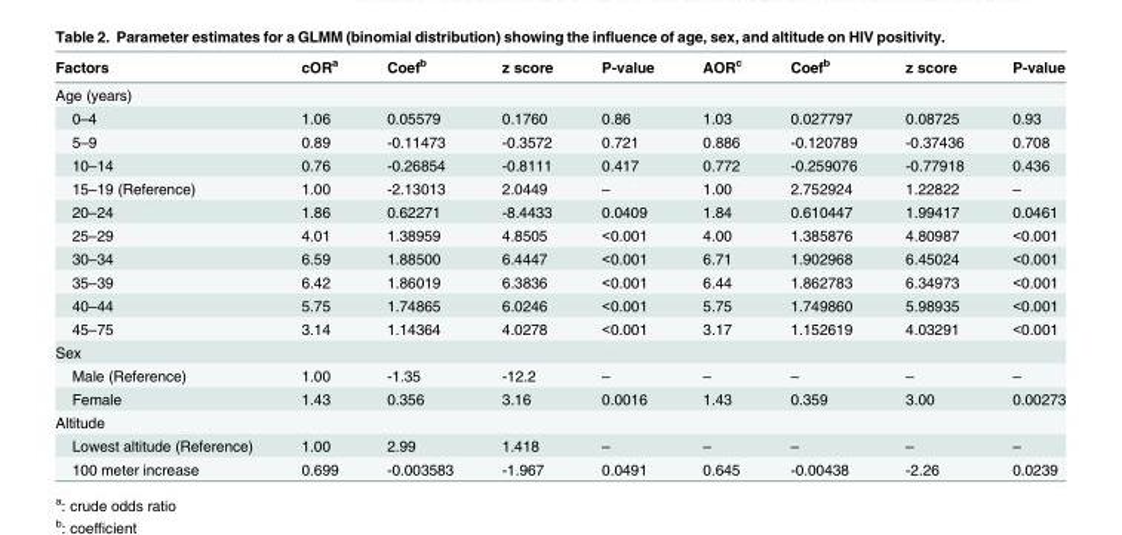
<table><thead><tr><td>Factors</td><td>cOR<sup>a</sup></td><td>Coef<sup>b</sup></td><td>z score</td><td>P-value</td><td>AOR<sup>c</sup></td><td>Coef<sup>b</sup></td><td>z score</td><td>P-value</td></tr></thead><tbody><tr><td colspan="9">Age (years)</td></tr><tr><td>0–4</td><td>1.06</td><td>0.05579</td><td>0.1760</td><td>0.86</td><td>1.03</td><td>0.027797</td><td>0.08725</td><td>0.93</td></tr><tr><td>5–9</td><td>0.89</td><td>-0.11473</td><td>-0.3572</td><td>0.721</td><td>0.886</td><td>-0.120789</td><td>-0.37436</td><td>0.708</td></tr><tr><td>10–14</td><td>0.76</td><td>-0.26854</td><td>-0.8111</td><td>0.417</td><td>0.772</td><td>-0.259076</td><td>-0.77918</td><td>0.436</td></tr><tr><td>15–19 (Reference)</td><td>1.00</td><td>-2.13013</td><td>2.0449</td><td>–</td><td>1.00</td><td>2.752924</td><td>1.22822</td><td>–</td></tr><tr><td>20–24</td><td>1.86</td><td>0.62271</td><td>-8.4433</td><td>0.0409</td><td>1.84</td><td>0.610447</td><td>1.99417</td><td>0.0461</td></tr><tr><td>25–29</td><td>4.01</td><td>1.38959</td><td>4.8505</td><td>&lt;0.001</td><td>4.00</td><td>1.385876</td><td>4.80987</td><td>&lt;0.001</td></tr><tr><td>30–34</td><td>6.59</td><td>1.88500</td><td>6.4447</td><td>&lt;0.001</td><td>6.71</td><td>1.902968</td><td>6.45024</td><td>&lt;0.001</td></tr><tr><td>35–39</td><td>6.42</td><td>1.86019</td><td>6.3836</td><td>&lt;0.001</td><td>6.44</td><td>1.862783</td><td>6.34973</td><td>&lt;0.001</td></tr><tr><td>40–44</td><td>5.75</td><td>1.74865</td><td>6.0246</td><td>&lt;0.001</td><td>5.75</td><td>1.749860</td><td>5.98935</td><td>&lt;0.001</td></tr><tr><td>45–75</td><td>3.14</td><td>1.14364</td><td>4.0278</td><td>&lt;0.001</td><td>3.17</td><td>1.152619</td><td>4.03291</td><td>&lt;0.001</td></tr><tr><td colspan="9">Sex</td></tr><tr><td>Male (Reference)</td><td>1.00</td><td>-1.35</td><td>-12.2</td><td>–</td><td>–</td><td>–</td><td>–</td><td>–</td></tr><tr><td>Female</td><td>1.43</td><td>0.356</td><td>3.16</td><td>0.0016</td><td>1.43</td><td>0.359</td><td>3.00</td><td>0.00273</td></tr><tr><td colspan="9">Altitude</td></tr><tr><td>Lowest altitude (Reference)</td><td>1.00</td><td>2.99</td><td>1.418</td><td>–</td><td>–</td><td>–</td><td>–</td><td>–</td></tr><tr><td>100 meter increase</td><td>0.699</td><td>-0.003583</td><td>-1.967</td><td>0.0491</td><td>0.645</td><td>-0.00438</td><td>-2.26</td><td>0.0239</td></tr></tbody></table>